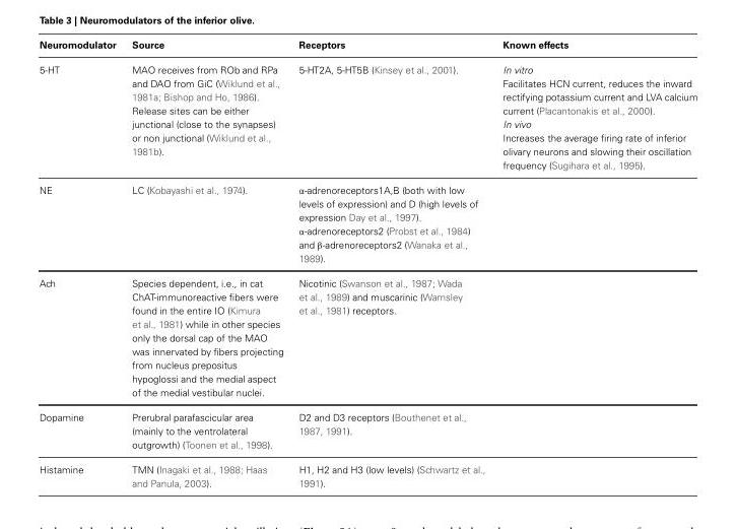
<table><thead><tr><td>Neuromodulator</td><td>Source</td><td>Receptors</td><td>Known effects</td></tr></thead><tbody><tr><td rowspan="4">5-HT</td><td rowspan="4">MAO receives from ROb and RPa and DAO from GiC (Wiklund et al., 1981a; Bishop and Ho, 1986). Release sites can be either junctional (close to the synapses) or non junctional (Wiklund et al., 1981b).</td><td rowspan="4">5-HT2A, 5-HT5B (Kinsey et al., 2001).</td><td>In vitro</td></tr><tr><td>Facilitates HCN current, reduces the inward rectifying potassium current and LVA calcium current (Placantonakis et al., 2000).</td></tr><tr><td>In vivo</td></tr><tr><td>Increases the average firing rate of inferior olivary neurons and slowing their oscillation frequency (Sugihara et al., 1995).</td></tr><tr><td>NE</td><td>LC (Kobayashi et al., 1974).</td><td>α-adrenoreceptors1A,B (both with low levels of expression) and D (high levels of expression Day et al., 1997). α-adrenoreceptors2 (Probst et al., 1984) and β-adrenoreceptors2 (Wanaka et al., 1989).</td><td></td></tr><tr><td>Ach</td><td>Species dependent, i.e., in cat ChAT-immunoreactive fibers were found in the entire IO (Kimura et al., 1981) while in other species only the dorsal cap of the MAO was innervated by fibers projecting from nucleus prepositus hypoglossi and the medial aspect of the medial vestibular nuclei.</td><td>Nicotinic (Swanson et al., 1987; Wada et al., 1989) and muscarinic (Wamsley et al., 1981) receptors.</td><td></td></tr><tr><td>Dopamine</td><td>Prerubral parafascicular area (mainly to the ventrolateral outgrowth) (Toonen et al., 1998).</td><td>D2 and D3 receptors (Bouthenet et al., 1987, 1991).</td><td></td></tr><tr><td>Histamine</td><td>TMN (Inagaki et al., 1988; Haas and Panula, 2003).</td><td>H1, H2 and H3 (low levels) (Schwartz et al., 1991).</td><td></td></tr></tbody></table>